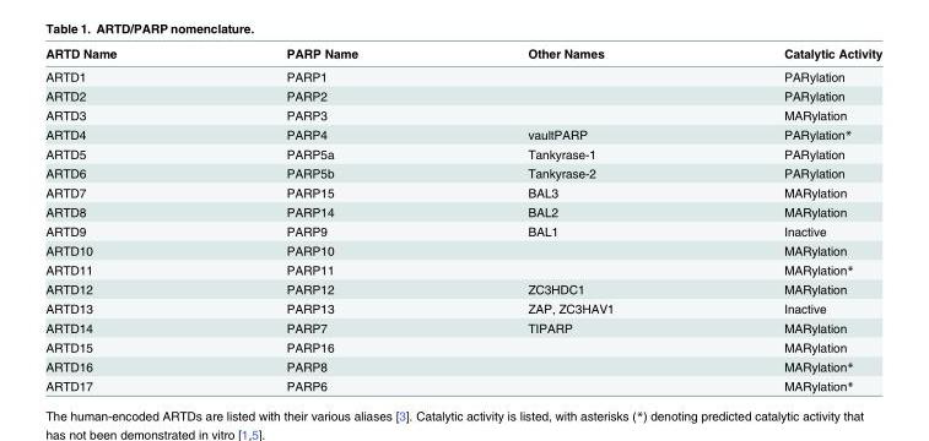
<table><thead><tr><td>ARTD Name</td><td>PARP Name</td><td>Other Names</td><td>Catalytic Activity</td></tr></thead><tbody><tr><td>ARTD1</td><td>PARP1</td><td></td><td>PARylation</td></tr><tr><td>ARTD2</td><td>PARP2</td><td></td><td>PARylation</td></tr><tr><td>ARTD3</td><td>PARP3</td><td></td><td>MARylation</td></tr><tr><td>ARTD4</td><td>PARP4</td><td>vaultPARP</td><td>PARylation*</td></tr><tr><td>ARTD5</td><td>PARP5a</td><td>Tankyrase-1</td><td>PARylation</td></tr><tr><td>ARTD6</td><td>PARP5b</td><td>Tankyrase-2</td><td>PARylation</td></tr><tr><td>ARTD7</td><td>PARP15</td><td>BAL3</td><td>MARylation</td></tr><tr><td>ARTD8</td><td>PARP14</td><td>BAL2</td><td>MARylation</td></tr><tr><td>ARTD9</td><td>PARP9</td><td>BAL1</td><td>Inactive</td></tr><tr><td>ARTD10</td><td>PARP10</td><td></td><td>MARylation</td></tr><tr><td>ARTD11</td><td>PARP11</td><td></td><td>MARylation*</td></tr><tr><td>ARTD12</td><td>PARP12</td><td>ZC3HDC1</td><td>MARylation</td></tr><tr><td>ARTD13</td><td>PARP13</td><td>ZAP, ZC3HAV1</td><td>Inactive</td></tr><tr><td>ARTD14</td><td>PARP7</td><td>TIPARP</td><td>MARylation</td></tr><tr><td>ARTD15</td><td>PARP16</td><td></td><td>MARylation</td></tr><tr><td>ARTD16</td><td>PARP8</td><td></td><td>MARylation*</td></tr><tr><td>ARTD17</td><td>PARP6</td><td></td><td>MARylation*</td></tr></tbody></table>